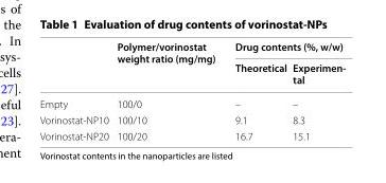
<table><thead><tr><td rowspan="2"></td><td rowspan="2">Polymer/vorinostat weight ratio (mg/mg)</td><td colspan="2">Drug contents (%, w/w)</td></tr><tr><td>Theoretical</td><td>Experimen‑ tal</td></tr></thead><tbody><tr><td>Empty</td><td>100/0</td><td>–</td><td>–</td></tr><tr><td>Vorinostat‑NP10</td><td>100/10</td><td>9.1</td><td>8.3</td></tr><tr><td>Vorinostat‑NP20</td><td>100/20</td><td>16.7</td><td>15.1</td></tr></tbody></table>